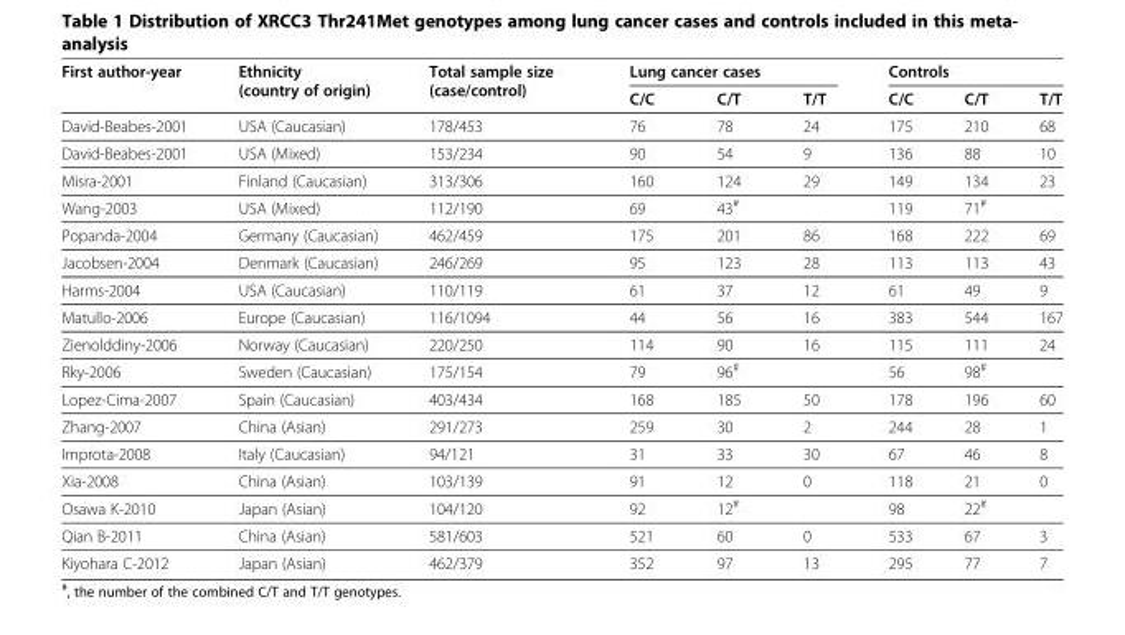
<table><thead><tr><td rowspan="2">First author-year</td><td rowspan="2">Ethnicity (country of origin)</td><td rowspan="2">Total sample size (case/control)</td><td colspan="3">Lung cancer cases</td><td colspan="3">Controls</td></tr><tr><td>C/C</td><td>C/T</td><td>T/T</td><td>C/C</td><td>C/T</td><td>T/T</td></tr></thead><tbody><tr><td>David-Beabes-2001</td><td>USA (Caucasian)</td><td>178/453</td><td>76</td><td>78</td><td>24</td><td>175</td><td>210</td><td>68</td></tr><tr><td>David-Beabes-2001</td><td>USA (Mixed)</td><td>153/234</td><td>90</td><td>54</td><td>9</td><td>136</td><td>88</td><td>10</td></tr><tr><td>Misra-2001</td><td>Finland (Caucasian)</td><td>313/306</td><td>160</td><td>124</td><td>29</td><td>149</td><td>134</td><td>23</td></tr><tr><td>Wang-2003</td><td>USA (Mixed)</td><td>112/190</td><td>69</td><td>43<sup>#</sup></td><td></td><td>119</td><td>71<sup>#</sup></td><td></td></tr><tr><td>Popanda-2004</td><td>Germany (Caucasian)</td><td>462/459</td><td>175</td><td>201</td><td>86</td><td>168</td><td>222</td><td>69</td></tr><tr><td>Jacobsen-2004</td><td>Denmark (Caucasian)</td><td>246/269</td><td>95</td><td>123</td><td>28</td><td>113</td><td>113</td><td>43</td></tr><tr><td>Harms-2004</td><td>USA (Caucasian)</td><td>110/119</td><td>61</td><td>37</td><td>12</td><td>61</td><td>49</td><td>9</td></tr><tr><td>Matullo-2006</td><td>Europe (Caucasian)</td><td>116/1094</td><td>44</td><td>56</td><td>16</td><td>383</td><td>544</td><td>167</td></tr><tr><td>Zienolddiny-2006</td><td>Norway (Caucasian)</td><td>220/250</td><td>114</td><td>90</td><td>16</td><td>115</td><td>111</td><td>24</td></tr><tr><td>Rky-2006</td><td>Sweden (Caucasian)</td><td>175/154</td><td>79</td><td>96<sup>#</sup></td><td></td><td>56</td><td>98<sup>#</sup></td><td></td></tr><tr><td>Lopez-Cima-2007</td><td>Spain (Caucasian)</td><td>403/434</td><td>168</td><td>185</td><td>50</td><td>178</td><td>196</td><td>60</td></tr><tr><td>Zhang-2007</td><td>China (Asian)</td><td>291/273</td><td>259</td><td>30</td><td>2</td><td>244</td><td>28</td><td>1</td></tr><tr><td>Improta-2008</td><td>Italy (Caucasian)</td><td>94/121</td><td>31</td><td>33</td><td>30</td><td>67</td><td>46</td><td>8</td></tr><tr><td>Xia-2008</td><td>China (Asian)</td><td>103/139</td><td>91</td><td>12</td><td>0</td><td>118</td><td>21</td><td>0</td></tr><tr><td>Osawa K-2010</td><td>Japan (Asian)</td><td>104/120</td><td>92</td><td>12<sup>#</sup></td><td></td><td>98</td><td>22<sup>#</sup></td><td></td></tr><tr><td>Qian B-2011</td><td>China (Asian)</td><td>581/603</td><td>521</td><td>60</td><td>0</td><td>533</td><td>67</td><td>3</td></tr><tr><td>Kiyohara C-2012</td><td>Japan (Asian)</td><td>462/379</td><td>352</td><td>97</td><td>13</td><td>295</td><td>77</td><td>7</td></tr></tbody></table>